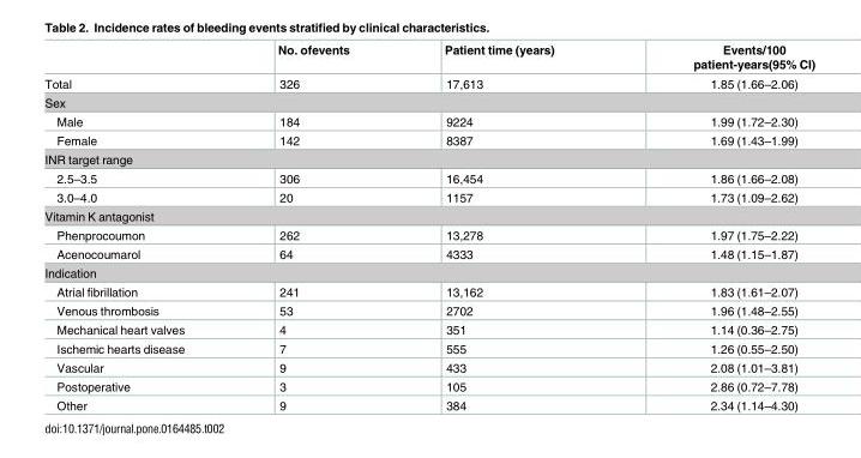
<table><thead><tr><td></td><td>No. ofevents</td><td>Patient time (years)</td><td>Events/100 patient-years(95% CI)</td></tr></thead><tbody><tr><td>Total</td><td>326</td><td>17,613</td><td>1.85 (1.66–2.06)</td></tr><tr><td colspan="4">Sex</td></tr><tr><td>Male</td><td>184</td><td>9224</td><td>1.99 (1.72–2.30)</td></tr><tr><td>Female</td><td>142</td><td>8387</td><td>1.69 (1.43–1.99)</td></tr><tr><td colspan="4">INR target range</td></tr><tr><td>2.5–3.5</td><td>306</td><td>16,454</td><td>1.86 (1.66–2.08)</td></tr><tr><td>3.0–4.0</td><td>20</td><td>1157</td><td>1.73 (1.09–2.62)</td></tr><tr><td colspan="4">Vitamin K antagonist</td></tr><tr><td>Phenprocoumon</td><td>262</td><td>13,278</td><td>1.97 (1.75–2.22)</td></tr><tr><td>Acenocoumarol</td><td>64</td><td>4333</td><td>1.48 (1.15–1.87)</td></tr><tr><td colspan="4">Indication</td></tr><tr><td>Atrial fibrillation</td><td>241</td><td>13,162</td><td>1.83 (1.61–2.07)</td></tr><tr><td>Venous thrombosis</td><td>53</td><td>2702</td><td>1.96 (1.48–2.55)</td></tr><tr><td>Mechanical heart valves</td><td>4</td><td>351</td><td>1.14 (0.36–2.75)</td></tr><tr><td>Ischemic hearts disease</td><td>7</td><td>555</td><td>1.26 (0.55–2.50)</td></tr><tr><td>Vascular</td><td>9</td><td>433</td><td>2.08 (1.01–3.81)</td></tr><tr><td>Postoperative</td><td>3</td><td>105</td><td>2.86 (0.72–7.78)</td></tr><tr><td>Other</td><td>9</td><td>384</td><td>2.34 (1.14–4.30)</td></tr></tbody></table>